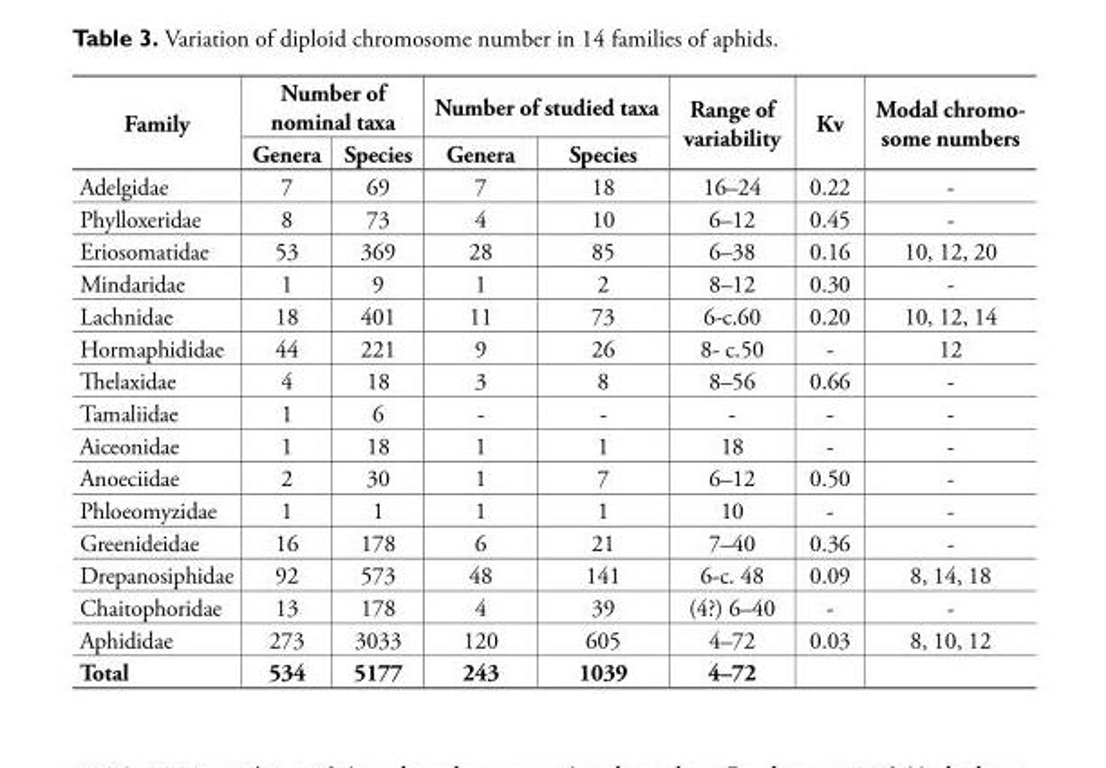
<table><thead><tr><td rowspan="2">Family</td><td colspan="2">Number of nominal taxa</td><td colspan="2">Number of studied taxa</td><td rowspan="2">Range of variability</td><td rowspan="2">Kv</td><td rowspan="2">Modal chromo- some numbers</td></tr><tr><td>Genera</td><td>Species</td><td>Genera</td><td>Species</td></tr></thead><tbody><tr><td>Adelgidae</td><td>7</td><td>69</td><td>7</td><td>18</td><td>16–24</td><td>0.22</td><td>-</td></tr><tr><td>Phylloxeridae</td><td>8</td><td>73</td><td>4</td><td>10</td><td>6–12</td><td>0.45</td><td>-</td></tr><tr><td>Eriosomatidae</td><td>53</td><td>369</td><td>28</td><td>85</td><td>6–38</td><td>0.16</td><td>10, 12, 20</td></tr><tr><td>Mindaridae</td><td>1</td><td>9</td><td>1</td><td>2</td><td>8–12</td><td>0.30</td><td>-</td></tr><tr><td>Lachnidae</td><td>18</td><td>401</td><td>11</td><td>73</td><td>6-c.60</td><td>0.20</td><td>10, 12, 14</td></tr><tr><td>Hormaphididae</td><td>44</td><td>221</td><td>9</td><td>26</td><td>8- c.50</td><td>-</td><td>12</td></tr><tr><td>Thelaxidae</td><td>4</td><td>18</td><td>3</td><td>8</td><td>8–56</td><td>0.66</td><td>-</td></tr><tr><td>Tamaliidae</td><td>1</td><td>6</td><td>-</td><td>-</td><td>-</td><td>-</td><td>-</td></tr><tr><td>Aiceonidae</td><td>1</td><td>18</td><td>1</td><td>1</td><td>18</td><td>-</td><td>-</td></tr><tr><td>Anoeciidae</td><td>2</td><td>30</td><td>1</td><td>7</td><td>6–12</td><td>0.50</td><td>-</td></tr><tr><td>Phloeomyzidae</td><td>1</td><td>1</td><td>1</td><td>1</td><td>10</td><td>-</td><td>-</td></tr><tr><td>Greenideidae</td><td>16</td><td>178</td><td>6</td><td>21</td><td>7–40</td><td>0.36</td><td>-</td></tr><tr><td>Drepanosiphidae</td><td>92</td><td>573</td><td>48</td><td>141</td><td>6-c. 48</td><td>0.09</td><td>8, 14, 18</td></tr><tr><td>Chaitophoridae</td><td>13</td><td>178</td><td>4</td><td>39</td><td>(4?) 6–40</td><td>-</td><td>-</td></tr><tr><td>Aphididae</td><td>273</td><td>3033</td><td>120</td><td>605</td><td>4–72</td><td>0.03</td><td>8, 10, 12</td></tr><tr><td>Total</td><td>534</td><td>5177</td><td>243</td><td>1039</td><td>4–72</td><td></td><td></td></tr></tbody></table>